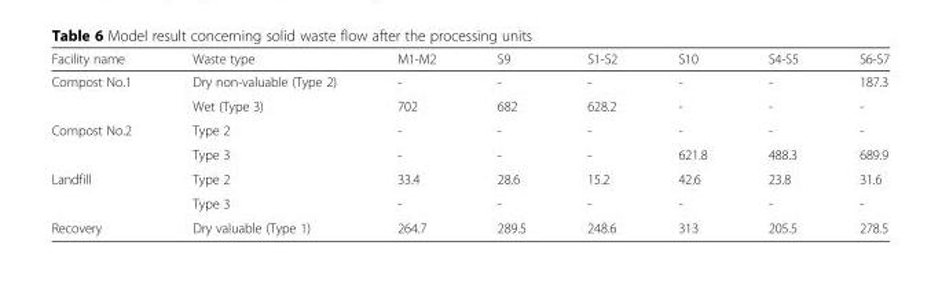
<table><thead><tr><td>Facility name</td><td>Waste type</td><td>M1-M2</td><td>S9</td><td>S1-S2</td><td>S10</td><td>S4-S5</td><td>S6-S7</td></tr></thead><tbody><tr><td rowspan="2">Compost No.1</td><td>Dry non-valuable (Type 2)</td><td>-</td><td>-</td><td>-</td><td>-</td><td>-</td><td>187.3</td></tr><tr><td>Wet (Type 3)</td><td>702</td><td>682</td><td>628.2</td><td>-</td><td>-</td><td>-</td></tr><tr><td rowspan="2">Compost No.2</td><td>Type 2</td><td>-</td><td>-</td><td>-</td><td>-</td><td>-</td><td>-</td></tr><tr><td>Type 3</td><td>-</td><td>-</td><td>-</td><td>621.8</td><td>488.3</td><td>689.9</td></tr><tr><td rowspan="2">Landfill</td><td>Type 2</td><td>33.4</td><td>28.6</td><td>15.2</td><td>42.6</td><td>23.8</td><td>31.6</td></tr><tr><td>Type 3</td><td>-</td><td>-</td><td>-</td><td>-</td><td>-</td><td>-</td></tr><tr><td>Recovery</td><td>Dry valuable (Type 1)</td><td>264.7</td><td>289.5</td><td>248.6</td><td>313</td><td>205.5</td><td>278.5</td></tr></tbody></table>